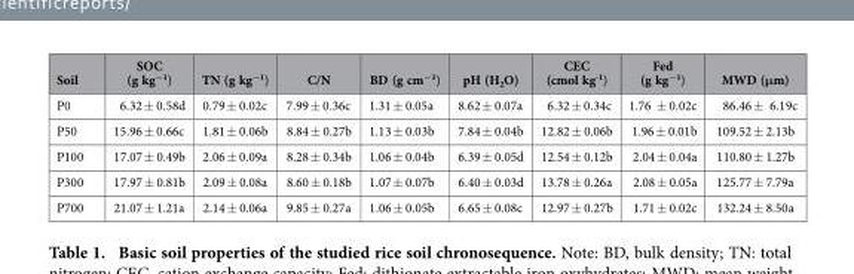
<table><thead><tr><td>Soil</td><td>SOC (g kg<sup>−1</sup>)</td><td>TN (g kg<sup>−1</sup>)</td><td>C/N</td><td>BD (g cm<sup>−3</sup>)</td><td>pH (H<sub>2</sub>O)</td><td>CEC (cmol kg<sup>-1</sup>)</td><td>Fed (g kg<sup>−1</sup>)</td><td>MWD (μm)</td></tr></thead><tbody><tr><td>P0</td><td>6.32 ± 0.58d</td><td>0.79 ± 0.02c</td><td>7.99 ± 0.36c</td><td>1.31 ± 0.05a</td><td>8.62 ± 0.07a</td><td>6.32 ± 0.34c</td><td>1.76 ± 0.02c</td><td>86.46 ± 6.19c</td></tr><tr><td>P50</td><td>15.96 ± 0.66c</td><td>1.81 ± 0.06b</td><td>8.84 ± 0.27b</td><td>1.13 ± 0.03b</td><td>7.84 ± 0.04b</td><td>12.82 ± 0.06b</td><td>1.96 ± 0.01b</td><td>109.52 ± 2.13b</td></tr><tr><td>P100</td><td>17.07 ± 0.49b</td><td>2.06 ± 0.09a</td><td>8.28 ± 0.34b</td><td>1.06 ± 0.04b</td><td>6.39 ± 0.05d</td><td>12.54 ± 0.12b</td><td>2.04 ± 0.04a</td><td>110.80 ± 1.27b</td></tr><tr><td>P300</td><td>17.97 ± 0.81b</td><td>2.09 ± 0.08a</td><td>8.60 ± 0.18b</td><td>1.07 ± 0.07b</td><td>6.40 ± 0.03d</td><td>13.78 ± 0.26a</td><td>2.08 ± 0.05a</td><td>125.77 ± 7.79a</td></tr><tr><td>P700</td><td>21.07 ± 1.21a</td><td>2.14 ± 0.06a</td><td>9.85 ± 0.27a</td><td>1.06 ± 0.05b</td><td>6.65 ± 0.08c</td><td>12.97 ± 0.27b</td><td>1.71 ± 0.02c</td><td>132.24 ± 8.50a</td></tr></tbody></table>